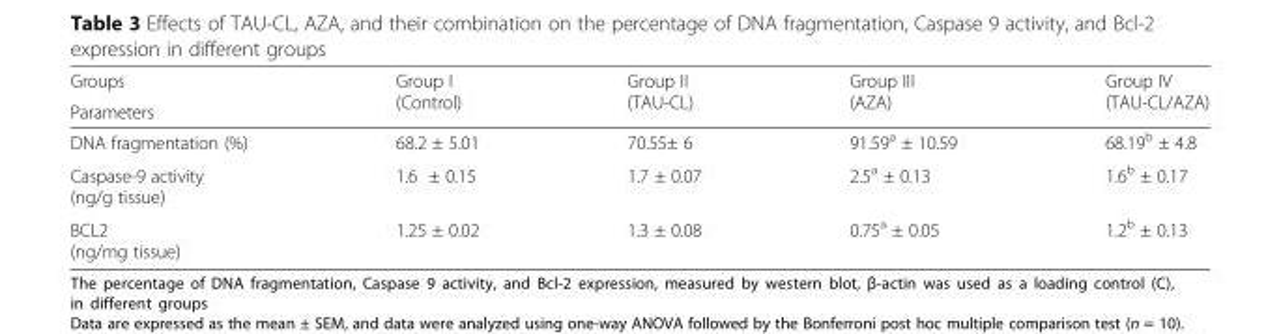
<table><thead><tr><td rowspan="2">Groups Parameters</td><td rowspan="2">Group I (Control)</td><td rowspan="2">Group II (TAU-CL)</td><td rowspan="2">Group III (AZA)</td><td rowspan="2">Group IV (TAU-CL/AZA)</td></tr><tr></tr></thead><tbody><tr><td>DNA fragmentation (%)</td><td>68.2 ± 5.01</td><td>70.55± 6</td><td>91.59<sup>a</sup> ± 10.59</td><td>68.19<sup>b</sup> ± 4.8</td></tr><tr><td>Caspase-9 activity (ng/g tissue)</td><td>1.6 ± 0.15</td><td>1.7 ± 0.07</td><td>2.5<sup>a</sup> ± 0.13</td><td>1.6<sup>b</sup> ± 0.17</td></tr><tr><td>BCL2 (ng/mg tissue)</td><td>1.25 ± 0.02</td><td>1.3 ± 0.08</td><td>0.75<sup>a</sup> ± 0.05</td><td>1.2<sup>b</sup> ± 0.13</td></tr></tbody></table>